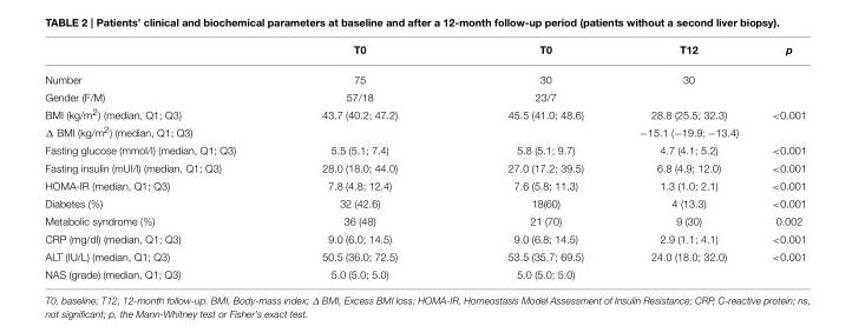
<table><thead><tr><td></td><td>T0</td><td>T0</td><td>T12</td><td>p</td></tr></thead><tbody><tr><td>Number</td><td>75</td><td>30</td><td>30</td><td></td></tr><tr><td>Gender (F/M)</td><td>57/18</td><td>23/7</td><td></td><td></td></tr><tr><td>BMI (kg/m2) (median, Q1; Q3)</td><td>43.7 (40.2; 47.2)</td><td>45.5 (41.0; 48.6)</td><td>28.8 (25.5; 32.3)</td><td>&lt;0.001</td></tr><tr><td>Δ BMI (kg/m2) (median, Q1; Q3)</td><td></td><td></td><td>−15.1 (−19.9; −13.4)</td><td></td></tr><tr><td>Fasting glucose (mmol/l) (median, Q1; Q3)</td><td>5.5 (5.1; 7.4)</td><td>5.8 (5.1; 9.7)</td><td>4.7 (4.1; 5.2)</td><td>&lt;0.001</td></tr><tr><td>Fasting insulin (mUI/l) (median, Q1; Q3)</td><td>28.0 (18.0; 44.0)</td><td>27.0 (17.2; 39.5)</td><td>6.8 (4.9; 12.0)</td><td>&lt;0.001</td></tr><tr><td>HOMA-IR (median, Q1; Q3)</td><td>7.8 (4.8; 12.4)</td><td>7.6 (5.8; 11.3)</td><td>1.3 (1.0; 2.1)</td><td>&lt;0.001</td></tr><tr><td>Diabetes (%)</td><td>32 (42.6)</td><td>18(60)</td><td>4 (13.3)</td><td>&lt;0.001</td></tr><tr><td>Metabolic syndrome (%)</td><td>36 (48)</td><td>21 (70)</td><td>9 (30)</td><td>0.002</td></tr><tr><td>CRP (mg/dl) (median, Q1; Q3)</td><td>9.0 (6.0; 14.5)</td><td>9.0 (6.8; 14.5)</td><td>2.9 (1.1; 4.1)</td><td>&lt;0.001</td></tr><tr><td>ALT (IU/L) (median, Q1; Q3)</td><td>50.5 (36.0; 72.5)</td><td>53.5 (35.7; 69.5)</td><td>24.0 (18.0; 32.0)</td><td>&lt;0.001</td></tr><tr><td>NAS (grade) (median, Q1; Q3)</td><td>5.0 (5.0; 5.0)</td><td>5.0 (5.0; 5.0)</td><td></td><td></td></tr></tbody></table>